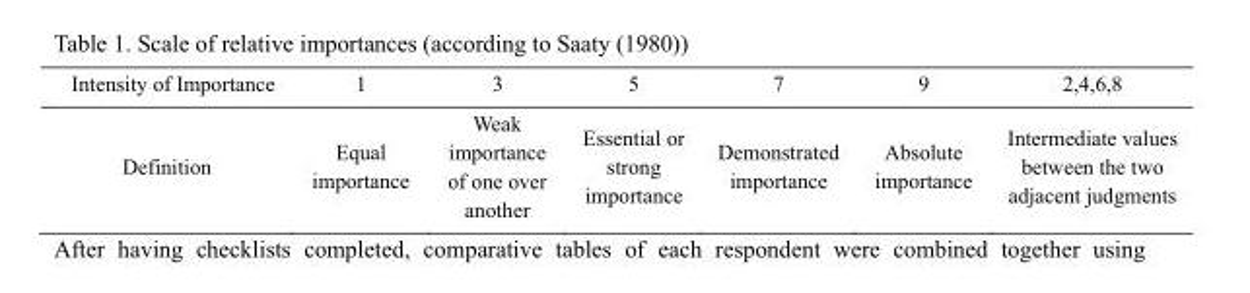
<table><thead><tr><td>Intensity of Importance</td><td>1</td><td>3</td><td>5</td><td>7</td><td>9</td><td>2,4,6,8</td></tr></thead><tbody><tr><td>Definition</td><td>Equal importance</td><td>Weak importance of one over another</td><td>Essential or strong importance</td><td>Demonstrated importance</td><td>Absolute importance</td><td>Intermediate values between the two adjacent judgments</td></tr></tbody></table>